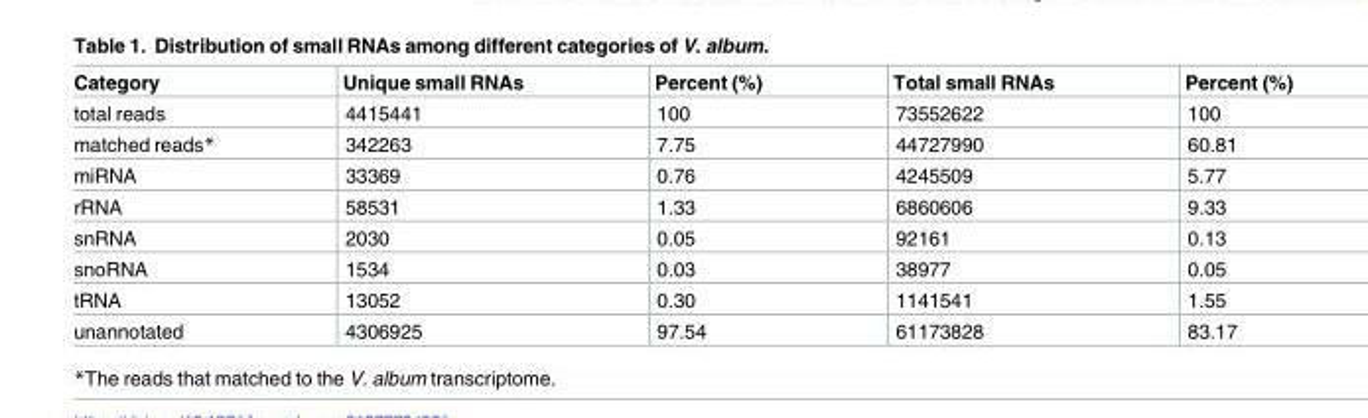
<table><thead><tr><td>Category</td><td>Unique small RNAs</td><td>Percent (%)</td><td>Total small RNAs</td><td>Percent (%)</td></tr></thead><tbody><tr><td>total reads</td><td>4415441</td><td>100</td><td>73552622</td><td>100</td></tr><tr><td>matched reads*</td><td>342263</td><td>7.75</td><td>44727990</td><td>60.81</td></tr><tr><td>miRNA</td><td>33369</td><td>0.76</td><td>4245509</td><td>5.77</td></tr><tr><td>rRNA</td><td>58531</td><td>1.33</td><td>6860606</td><td>9.33</td></tr><tr><td>snRNA</td><td>2030</td><td>0.05</td><td>92161</td><td>0.13</td></tr><tr><td>snoRNA</td><td>1534</td><td>0.03</td><td>38977</td><td>0.05</td></tr><tr><td>tRNA</td><td>13052</td><td>0.30</td><td>1141541</td><td>1.55</td></tr><tr><td>unannotated</td><td>4306925</td><td>97.54</td><td>61173828</td><td>83.17</td></tr></tbody></table>